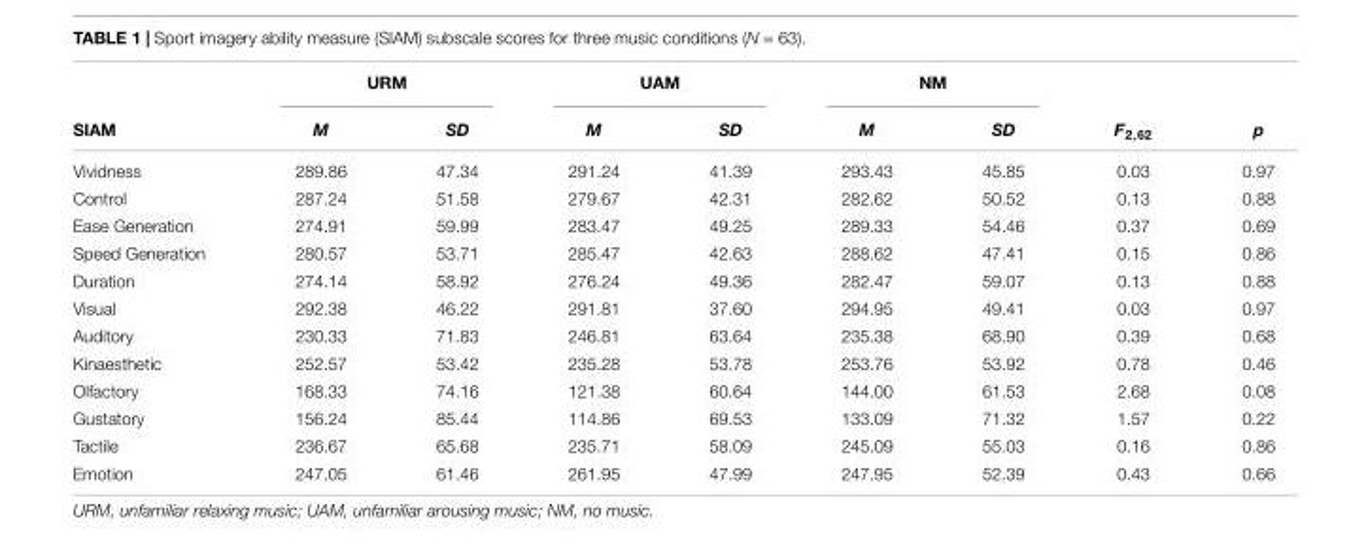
<table><thead><tr><td rowspan="2">SIAM</td><td colspan="2">URM</td><td colspan="2">UAM</td><td colspan="2">NM</td><td rowspan="2">F<sub>2,62</sub></td><td rowspan="2">p</td></tr><tr><td>M</td><td>SD</td><td>M</td><td>SD</td><td>M</td><td>SD</td></tr></thead><tbody><tr><td>Vividness</td><td>289.86</td><td>47.34</td><td>291.24</td><td>41.39</td><td>293.43</td><td>45.85</td><td>0.03</td><td>0.97</td></tr><tr><td>Control</td><td>287.24</td><td>51.58</td><td>279.67</td><td>42.31</td><td>282.62</td><td>50.52</td><td>0.13</td><td>0.88</td></tr><tr><td>Ease Generation</td><td>274.91</td><td>59.99</td><td>283.47</td><td>49.25</td><td>289.33</td><td>54.46</td><td>0.37</td><td>0.69</td></tr><tr><td>Speed Generation</td><td>280.57</td><td>53.71</td><td>285.47</td><td>42.63</td><td>288.62</td><td>47.41</td><td>0.15</td><td>0.86</td></tr><tr><td>Duration</td><td>274.14</td><td>58.92</td><td>276.24</td><td>49.36</td><td>282.47</td><td>59.07</td><td>0.13</td><td>0.88</td></tr><tr><td>Visual</td><td>292.38</td><td>46.22</td><td>291.81</td><td>37.60</td><td>294.95</td><td>49.41</td><td>0.03</td><td>0.97</td></tr><tr><td>Auditory</td><td>230.33</td><td>71.83</td><td>246.81</td><td>63.64</td><td>235.38</td><td>68.90</td><td>0.39</td><td>0.68</td></tr><tr><td>Kinaesthetic</td><td>252.57</td><td>53.42</td><td>235.28</td><td>53.78</td><td>253.76</td><td>53.92</td><td>0.78</td><td>0.46</td></tr><tr><td>Olfactory</td><td>168.33</td><td>74.16</td><td>121.38</td><td>60.64</td><td>144.00</td><td>61.53</td><td>2.68</td><td>0.08</td></tr><tr><td>Gustatory</td><td>156.24</td><td>85.44</td><td>114.86</td><td>69.53</td><td>133.09</td><td>71.32</td><td>1.57</td><td>0.22</td></tr><tr><td>Tactile</td><td>236.67</td><td>65.68</td><td>235.71</td><td>58.09</td><td>245.09</td><td>55.03</td><td>0.16</td><td>0.86</td></tr><tr><td>Emotion</td><td>247.05</td><td>61.46</td><td>261.95</td><td>47.99</td><td>247.95</td><td>52.39</td><td>0.43</td><td>0.66</td></tr></tbody></table>